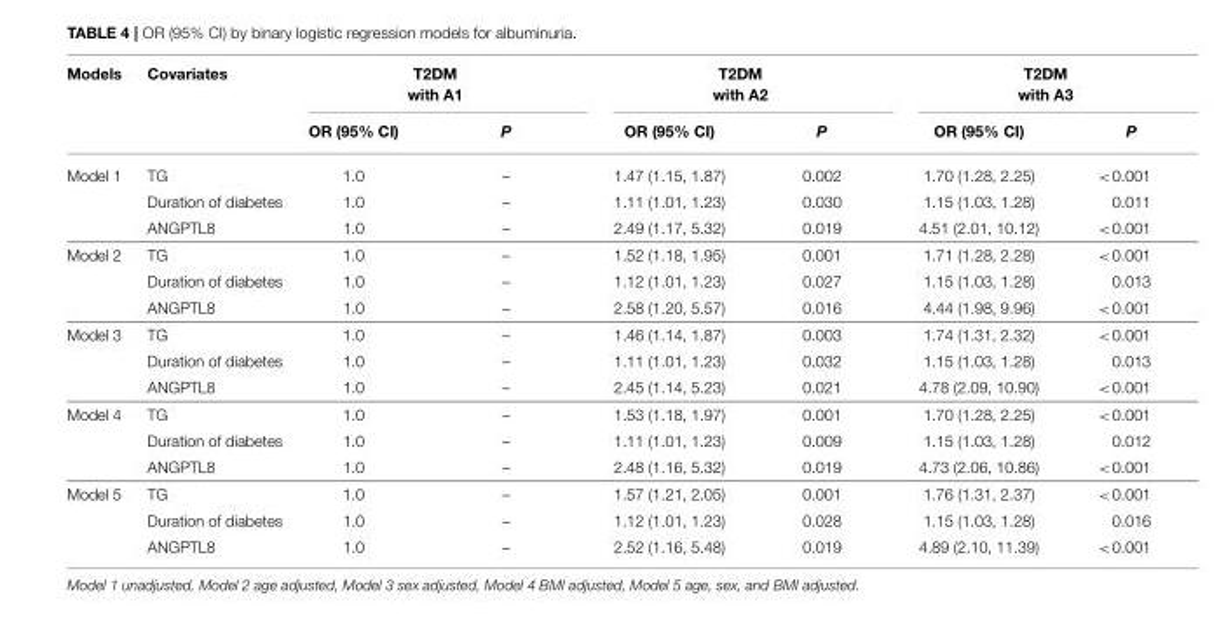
<table><thead><tr><td rowspan="2">Models</td><td rowspan="2">Covariates</td><td colspan="2">T2DM with A1</td><td colspan="2">T2DM with A2</td><td colspan="2">T2DM with A3</td></tr><tr><td>OR (95% CI)</td><td>P</td><td>OR (95% CI)</td><td>P</td><td>OR (95% CI)</td><td>P</td></tr></thead><tbody><tr><td rowspan="3">Model 1</td><td>TG</td><td>1.0</td><td>–</td><td>1.47 (1.15, 1.87)</td><td>0.002</td><td>1.70 (1.28, 2.25)</td><td>&lt;0.001</td></tr><tr><td>Duration of diabetes</td><td>1.0</td><td>–</td><td>1.11 (1.01, 1.23)</td><td>0.030</td><td>1.15 (1.03, 1.28)</td><td>0.011</td></tr><tr><td>ANGPTL8</td><td>1.0</td><td>–</td><td>2.49 (1.17, 5.32)</td><td>0.019</td><td>4.51 (2.01, 10.12)</td><td>&lt;0.001</td></tr><tr><td rowspan="3">Model 2</td><td>TG</td><td>1.0</td><td>–</td><td>1.52 (1.18, 1.95)</td><td>0.001</td><td>1.71 (1.28, 2.28)</td><td>&lt;0.001</td></tr><tr><td>Duration of diabetes</td><td>1.0</td><td>–</td><td>1.12 (1.01, 1.23)</td><td>0.027</td><td>1.15 (1.03, 1.28)</td><td>0.013</td></tr><tr><td>ANGPTL8</td><td>1.0</td><td>–</td><td>2.58 (1.20, 5.57)</td><td>0.016</td><td>4.44 (1.98, 9.96)</td><td>&lt;0.001</td></tr><tr><td rowspan="3">Model 3</td><td>TG</td><td>1.0</td><td>–</td><td>1.46 (1.14, 1.87)</td><td>0.003</td><td>1.74 (1.31, 2.32)</td><td>&lt;0.001</td></tr><tr><td>Duration of diabetes</td><td>1.0</td><td>–</td><td>1.11 (1.01, 1.23)</td><td>0.032</td><td>1.15 (1.03, 1.28)</td><td>0.013</td></tr><tr><td>ANGPTL8</td><td>1.0</td><td>–</td><td>2.45 (1.14, 5.23)</td><td>0.021</td><td>4.78 (2.09, 10.90)</td><td>&lt;0.001</td></tr><tr><td rowspan="3">Model 4</td><td>TG</td><td>1.0</td><td>–</td><td>1.53 (1.18, 1.97)</td><td>0.001</td><td>1.70 (1.28, 2.25)</td><td>&lt;0.001</td></tr><tr><td>Duration of diabetes</td><td>1.0</td><td>–</td><td>1.11 (1.01, 1.23)</td><td>0.009</td><td>1.15 (1.03, 1.28)</td><td>0.012</td></tr><tr><td>ANGPTL8</td><td>1.0</td><td>–</td><td>2.48 (1.16, 5.32)</td><td>0.019</td><td>4.73 (2.06, 10.86)</td><td>&lt;0.001</td></tr><tr><td rowspan="3">Model 5</td><td>TG</td><td>1.0</td><td>–</td><td>1.57 (1.21, 2.05)</td><td>0.001</td><td>1.76 (1.31, 2.37)</td><td>&lt;0.001</td></tr><tr><td>Duration of diabetes</td><td>1.0</td><td>–</td><td>1.12 (1.01, 1.23)</td><td>0.028</td><td>1.15 (1.03, 1.28)</td><td>0.016</td></tr><tr><td>ANGPTL8</td><td>1.0</td><td>–</td><td>2.52 (1.16, 5.48)</td><td>0.019</td><td>4.89 (2.10, 11.39)</td><td>&lt;0.001</td></tr></tbody></table>